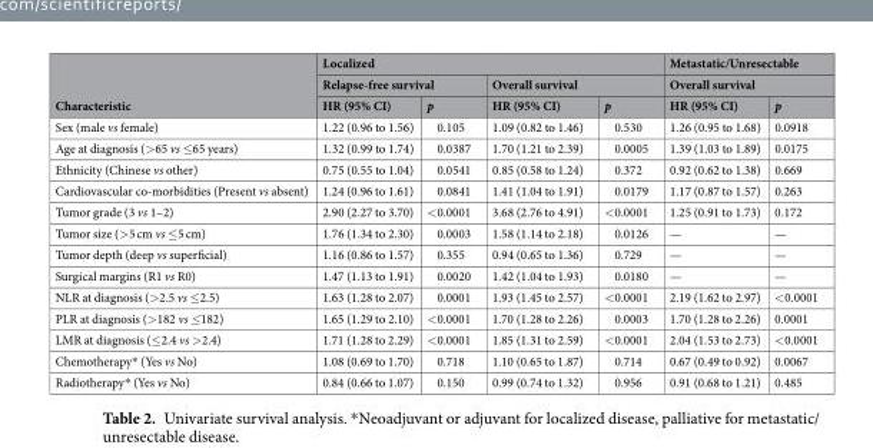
<table><thead><tr><td rowspan="3">Characteristic</td><td colspan="4">Localized</td><td rowspan="2" colspan="2">Metastatic/Unresectable Overall survival</td></tr><tr><td colspan="2">Relapse-free survival</td><td colspan="2">Overall survival</td></tr><tr><td>HR (95% CI)</td><td>p</td><td>HR (95% CI)</td><td>p</td><td>HR (95% CI)</td><td>p</td></tr></thead><tbody><tr><td>Sex (male vs female)</td><td>1.22 (0.96 to 1.56)</td><td>0.105</td><td>1.09 (0.82 to 1.46)</td><td>0.530</td><td>1.26 (0.95 to 1.68)</td><td>0.0918</td></tr><tr><td>Age at diagnosis (&gt;65 vs ≤65 years)</td><td>1.32 (0.99 to 1.74)</td><td>0.0387</td><td>1.70 (1.21 to 2.39)</td><td>0.0005</td><td>1.39 (1.03 to 1.89)</td><td>0.0175</td></tr><tr><td>Ethnicity (Chinese vs other)</td><td>0.75 (0.55 to 1.04)</td><td>0.0541</td><td>0.85 (0.58 to 1.24)</td><td>0.372</td><td>0.92 (0.62 to 1.38)</td><td>0.669</td></tr><tr><td>Cardiovascular co-morbidities (Present vs absent)</td><td>1.24 (0.96 to 1.61)</td><td>0.0841</td><td>1.41 (1.04 to 1.91)</td><td>0.0179</td><td>1.17 (0.87 to 1.57)</td><td>0.263</td></tr><tr><td>Tumor grade (3 vs 1–2)</td><td>2.90 (2.27 to 3.70)</td><td>&lt;0.0001</td><td>3.68 (2.76 to 4.91)</td><td>&lt;0.0001</td><td>1.25 (0.91 to 1.73)</td><td>0.172</td></tr><tr><td>Tumor size (&gt;5 cm vs ≤5 cm)</td><td>1.76 (1.34 to 2.30)</td><td>0.0003</td><td>1.58 (1.14 to 2.18)</td><td>0.0126</td><td>—</td><td>—</td></tr><tr><td>Tumor depth (deep vs superficial)</td><td>1.16 (0.86 to 1.57)</td><td>0.355</td><td>0.94 (0.65 to 1.36)</td><td>0.729</td><td>—</td><td>—</td></tr><tr><td>Surgical margins (R1 vs R0)</td><td>1.47 (1.13 to 1.91)</td><td>0.0020</td><td>1.42 (1.04 to 1.93)</td><td>0.0180</td><td>—</td><td>—</td></tr><tr><td>NLR at diagnosis (&gt;2.5 vs ≤2.5)</td><td>1.63 (1.28 to 2.07)</td><td>0.0001</td><td>1.93 (1.45 to 2.57)</td><td>&lt;0.0001</td><td>2.19 (1.62 to 2.97)</td><td>&lt;0.0001</td></tr><tr><td>PLR at diagnosis (&gt;182 vs ≤182)</td><td>1.65 (1.29 to 2.10)</td><td>&lt;0.0001</td><td>1.70 (1.28 to 2.26)</td><td>0.0003</td><td>1.70 (1.28 to 2.26)</td><td>0.0001</td></tr><tr><td>LMR at diagnosis (≤2.4 vs &gt;2.4)</td><td>1.71 (1.28 to 2.29)</td><td>&lt;0.0001</td><td>1.85 (1.31 to 2.59)</td><td>&lt;0.0001</td><td>2.04 (1.53 to 2.73)</td><td>&lt;0.0001</td></tr><tr><td>Chemotherapy* (Yes vs No)</td><td>1.08 (0.69 to 1.70)</td><td>0.718</td><td>1.10 (0.65 to 1.87)</td><td>0.714</td><td>0.67 (0.49 to 0.92)</td><td>0.0067</td></tr><tr><td>Radiotherapy* (Yes vs No)</td><td>0.84 (0.66 to 1.07)</td><td>0.150</td><td>0.99 (0.74 to 1.32)</td><td>0.956</td><td>0.91 (0.68 to 1.21)</td><td>0.485</td></tr></tbody></table>